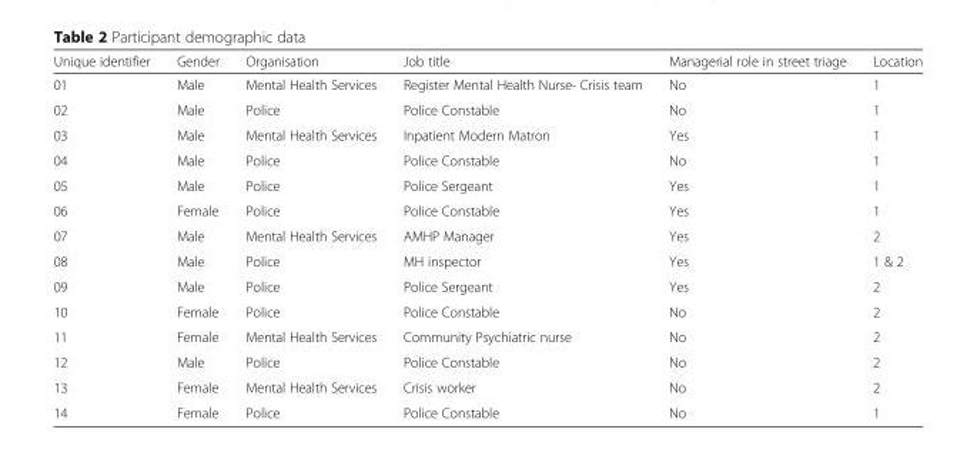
<table><thead><tr><td>Unique identifier</td><td>Gender</td><td>Organisation</td><td>Job title</td><td>Managerial role in street triage</td><td>Location</td></tr></thead><tbody><tr><td>01</td><td>Male</td><td>Mental Health Services</td><td>Register Mental Health Nurse- Crisis team</td><td>No</td><td>1</td></tr><tr><td>02</td><td>Male</td><td>Police</td><td>Police Constable</td><td>No</td><td>1</td></tr><tr><td>03</td><td>Male</td><td>Mental Health Services</td><td>Inpatient Modern Matron</td><td>Yes</td><td>1</td></tr><tr><td>04</td><td>Male</td><td>Police</td><td>Police Constable</td><td>No</td><td>1</td></tr><tr><td>05</td><td>Male</td><td>Police</td><td>Police Sergeant</td><td>Yes</td><td>1</td></tr><tr><td>06</td><td>Female</td><td>Police</td><td>Police Constable</td><td>Yes</td><td>1</td></tr><tr><td>07</td><td>Male</td><td>Mental Health Services</td><td>AMHP Manager</td><td>Yes</td><td>2</td></tr><tr><td>08</td><td>Male</td><td>Police</td><td>MH inspector</td><td>Yes</td><td>1 &amp; 2</td></tr><tr><td>09</td><td>Male</td><td>Police</td><td>Police Sergeant</td><td>Yes</td><td>2</td></tr><tr><td>10</td><td>Female</td><td>Police</td><td>Police Constable</td><td>No</td><td>2</td></tr><tr><td>11</td><td>Female</td><td>Mental Health Services</td><td>Community Psychiatric nurse</td><td>No</td><td>2</td></tr><tr><td>12</td><td>Male</td><td>Police</td><td>Police Constable</td><td>No</td><td>2</td></tr><tr><td>13</td><td>Female</td><td>Mental Health Services</td><td>Crisis worker</td><td>No</td><td>2</td></tr><tr><td>14</td><td>Female</td><td>Police</td><td>Police Constable</td><td>No</td><td>1</td></tr></tbody></table>